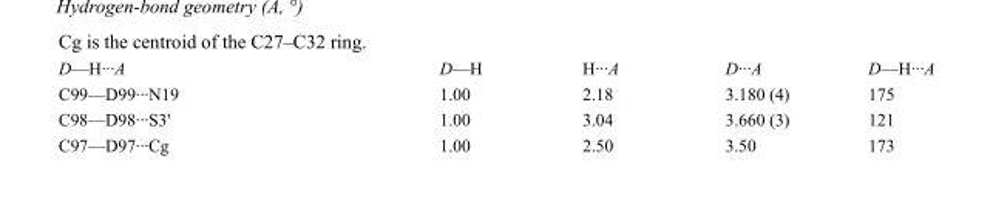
<table><tbody><tr><td>D—H···A</td><td>D—H</td><td>H···A</td><td>D···A</td><td>D—H···A</td></tr><tr><td>C99—D99···N19</td><td>1.00</td><td>2.18</td><td>3.180 (4)</td><td>175</td></tr><tr><td>C98—D98···S3&#x27;</td><td>1.00</td><td>3.04</td><td>3.660 (3)</td><td>121</td></tr><tr><td>C97—D97···Cg</td><td>1.00</td><td>2.50</td><td>3.50</td><td>173</td></tr></tbody></table>